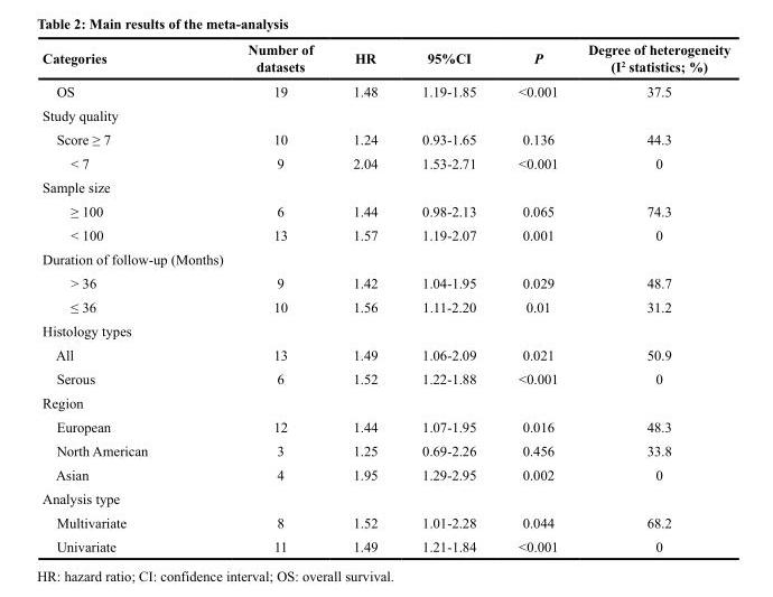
<table><thead><tr><td>Categories</td><td>Number of datasets</td><td>HR</td><td>95%CI</td><td>P</td><td>Degree of heterogeneity (I<sup>2</sup> statistics; %)</td></tr></thead><tbody><tr><td>OS</td><td>19</td><td>1.48</td><td>1.19-1.85</td><td>&lt;0.001</td><td>37.5</td></tr><tr><td colspan="6">Study quality</td></tr><tr><td>Score ≥ 7</td><td>10</td><td>1.24</td><td>0.93-1.65</td><td>0.136</td><td>44.3</td></tr><tr><td>&lt; 7</td><td>9</td><td>2.04</td><td>1.53-2.71</td><td>&lt;0.001</td><td>0</td></tr><tr><td colspan="6">Sample size</td></tr><tr><td>≥ 100</td><td>6</td><td>1.44</td><td>0.98-2.13</td><td>0.065</td><td>74.3</td></tr><tr><td>&lt; 100</td><td>13</td><td>1.57</td><td>1.19-2.07</td><td>0.001</td><td>0</td></tr><tr><td colspan="6">Duration of follow-up (Months)</td></tr><tr><td>&gt; 36</td><td>9</td><td>1.42</td><td>1.04-1.95</td><td>0.029</td><td>48.7</td></tr><tr><td>≤ 36</td><td>10</td><td>1.56</td><td>1.11-2.20</td><td>0.01</td><td>31.2</td></tr><tr><td colspan="6">Histology types</td></tr><tr><td>All</td><td>13</td><td>1.49</td><td>1.06-2.09</td><td>0.021</td><td>50.9</td></tr><tr><td>Serous</td><td>6</td><td>1.52</td><td>1.22-1.88</td><td>&lt;0.001</td><td>0</td></tr><tr><td colspan="6">Region</td></tr><tr><td>European</td><td>12</td><td>1.44</td><td>1.07-1.95</td><td>0.016</td><td>48.3</td></tr><tr><td>North American</td><td>3</td><td>1.25</td><td>0.69-2.26</td><td>0.456</td><td>33.8</td></tr><tr><td>Asian</td><td>4</td><td>1.95</td><td>1.29-2.95</td><td>0.002</td><td>0</td></tr><tr><td colspan="6">Analysis type</td></tr><tr><td>Multivariate</td><td>8</td><td>1.52</td><td>1.01-2.28</td><td>0.044</td><td>68.2</td></tr><tr><td>Univariate</td><td>11</td><td>1.49</td><td>1.21-1.84</td><td>&lt;0.001</td><td>0</td></tr></tbody></table>